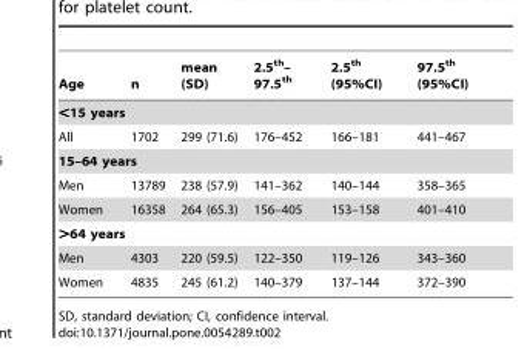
<table><thead><tr><td>Age</td><td>n</td><td>mean (SD)</td><td>2.5<sup>th</sup>– 97.5<sup>th</sup></td><td>2.5<sup>th</sup> (95%CI)</td><td>97.5<sup>th</sup> (95%CI)</td></tr></thead><tbody><tr><td colspan="6">&lt;15 years</td></tr><tr><td>All</td><td>1702</td><td>299 (71.6)</td><td>176–452</td><td>166–181</td><td>441–467</td></tr><tr><td colspan="6">15–64 years</td></tr><tr><td>Men</td><td>13789</td><td>238 (57.9)</td><td>141–362</td><td>140–144</td><td>358–365</td></tr><tr><td>Women</td><td>16358</td><td>264 (65.3)</td><td>156–405</td><td>153–158</td><td>401–410</td></tr><tr><td colspan="6">&gt;64 years</td></tr><tr><td>Men</td><td>4303</td><td>220 (59.5)</td><td>122–350</td><td>119–126</td><td>343–360</td></tr><tr><td>Women</td><td>4835</td><td>245 (61.2)</td><td>140–379</td><td>137–144</td><td>372–390</td></tr></tbody></table>